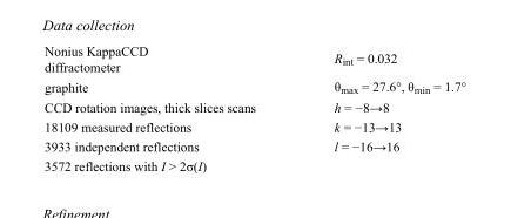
<table><tbody><tr><td>Nonius KappaCCD diffractometer</td><td>R<sub>int</sub> = 0.032</td></tr><tr><td>graphite</td><td>θ<sub>max</sub> = 27.6°, θ<sub>min</sub> = 1.7°</td></tr><tr><td>CCD rotation images, thick slices scans</td><td>h = −8→8</td></tr><tr><td>18109 measured reflections</td><td>k = −13→13</td></tr><tr><td>3933 independent reflections</td><td>l = −16→16</td></tr><tr><td>3572 reflections with I &gt; 2σ(I)</td><td></td></tr></tbody></table>